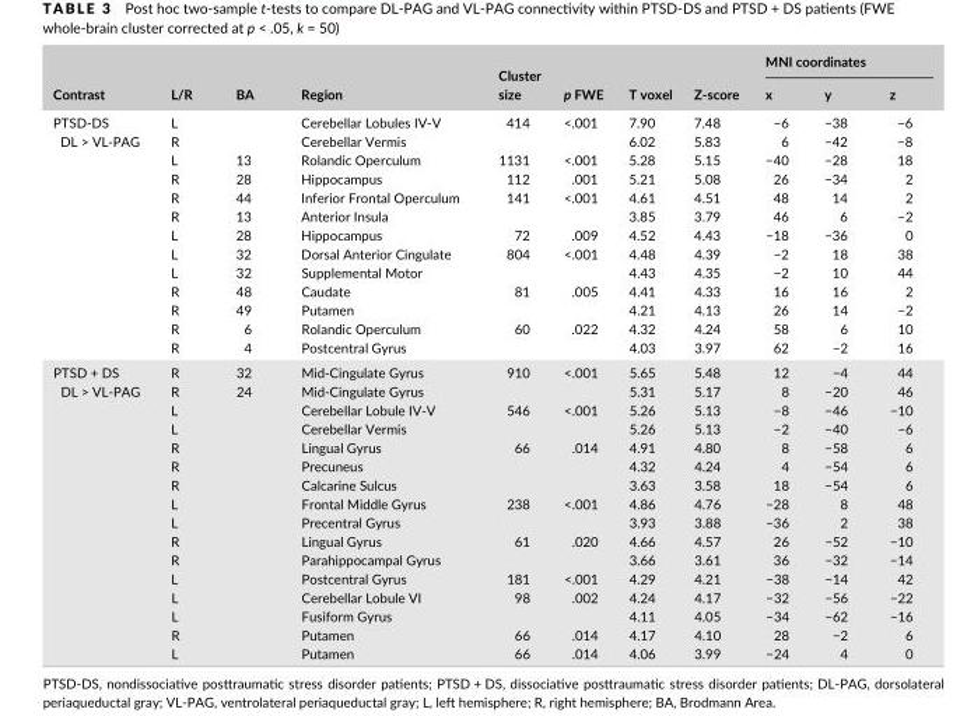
<table><thead><tr><td rowspan="2">Contrast</td><td rowspan="2">L/R</td><td rowspan="2">BA</td><td rowspan="2">Region</td><td rowspan="2">Cluster size</td><td rowspan="2">p FWE</td><td rowspan="2">T voxel</td><td rowspan="2">Z- score</td><td colspan="3">MNI coordinates</td></tr><tr><td>x</td><td>y</td><td>z</td></tr></thead><tbody><tr><td rowspan="13">PTSD- DS DL &gt; VL- PAG</td><td>L</td><td></td><td>Cerebellar Lobules IV- V</td><td>414</td><td>&lt;.001</td><td>7.90</td><td>7.48</td><td>−6</td><td>−38</td><td>−6</td></tr><tr><td>R</td><td></td><td>Cerebellar Vermis</td><td></td><td></td><td>6.02</td><td>5.83</td><td>6</td><td>−42</td><td>−8</td></tr><tr><td>L</td><td>13</td><td>Rolandic Operculum</td><td>1131</td><td>&lt;.001</td><td>5.28</td><td>5.15</td><td>−40</td><td>−28</td><td>18</td></tr><tr><td>R</td><td>28</td><td>Hippocampus</td><td>112</td><td>.001</td><td>5.21</td><td>5.08</td><td>26</td><td>−34</td><td>2</td></tr><tr><td>R</td><td>44</td><td>Inferior Frontal Operculum</td><td>141</td><td>&lt;.001</td><td>4.61</td><td>4.51</td><td>48</td><td>14</td><td>2</td></tr><tr><td>R</td><td>13</td><td>Anterior Insula</td><td></td><td></td><td>3.85</td><td>3.79</td><td>46</td><td>6</td><td>−2</td></tr><tr><td>L</td><td>28</td><td>Hippocampus</td><td>72</td><td>.009</td><td>4.52</td><td>4.43</td><td>−18</td><td>−36</td><td>0</td></tr><tr><td>L</td><td>32</td><td>Dorsal Anterior Cingulate</td><td>804</td><td>&lt;.001</td><td>4.48</td><td>4.39</td><td>−2</td><td>18</td><td>38</td></tr><tr><td>L</td><td>32</td><td>Supplemental Motor</td><td></td><td></td><td>4.43</td><td>4.35</td><td>−2</td><td>10</td><td>44</td></tr><tr><td>R</td><td>48</td><td>Caudate</td><td>81</td><td>.005</td><td>4.41</td><td>4.33</td><td>16</td><td>16</td><td>2</td></tr><tr><td>R</td><td>49</td><td>Putamen</td><td></td><td></td><td>4.21</td><td>4.13</td><td>26</td><td>14</td><td>−2</td></tr><tr><td>R</td><td>6</td><td>Rolandic Operculum</td><td>60</td><td>.022</td><td>4.32</td><td>4.24</td><td>58</td><td>6</td><td>10</td></tr><tr><td>R</td><td>4</td><td>Postcentral Gyrus</td><td></td><td></td><td>4.03</td><td>3.97</td><td>62</td><td>−2</td><td>16</td></tr><tr><td rowspan="16">PTSD + DS DL &gt; VL- PAG</td><td>R</td><td>32</td><td>Mid- Cingulate Gyrus</td><td>910</td><td>&lt;.001</td><td>5.65</td><td>5.48</td><td>12</td><td>−4</td><td>44</td></tr><tr><td>R</td><td>24</td><td>Mid- Cingulate Gyrus</td><td></td><td></td><td>5.31</td><td>5.17</td><td>8</td><td>−20</td><td>46</td></tr><tr><td>L</td><td></td><td>Cerebellar Lobule IV- V</td><td>546</td><td>&lt;.001</td><td>5.26</td><td>5.13</td><td>−8</td><td>−46</td><td>−10</td></tr><tr><td>L</td><td></td><td>Cerebellar Vermis</td><td></td><td></td><td>5.26</td><td>5.13</td><td>−2</td><td>−40</td><td>−6</td></tr><tr><td>R</td><td></td><td>Lingual Gyrus</td><td>66</td><td>.014</td><td>4.91</td><td>4.80</td><td>8</td><td>−58</td><td>6</td></tr><tr><td>R</td><td></td><td>Precuneus</td><td></td><td></td><td>4.32</td><td>4.24</td><td>4</td><td>−54</td><td>6</td></tr><tr><td>R</td><td></td><td>Calcarine Sulcus</td><td></td><td></td><td>3.63</td><td>3.58</td><td>18</td><td>−54</td><td>6</td></tr><tr><td>L</td><td></td><td>Frontal Middle Gyrus</td><td>238</td><td>&lt;.001</td><td>4.86</td><td>4.76</td><td>−28</td><td>8</td><td>48</td></tr><tr><td>L</td><td></td><td>Precentral Gyrus</td><td></td><td></td><td>3.93</td><td>3.88</td><td>−36</td><td>2</td><td>38</td></tr><tr><td>R</td><td></td><td>Lingual Gyrus</td><td>61</td><td>.020</td><td>4.66</td><td>4.57</td><td>26</td><td>−52</td><td>−10</td></tr><tr><td>R</td><td></td><td>Parahippocampal Gyrus</td><td></td><td></td><td>3.66</td><td>3.61</td><td>36</td><td>−32</td><td>−14</td></tr><tr><td>L</td><td></td><td>Postcentral Gyrus</td><td>181</td><td>&lt;.001</td><td>4.29</td><td>4.21</td><td>−38</td><td>−14</td><td>42</td></tr><tr><td>L</td><td></td><td>Cerebellar Lobule VI</td><td>98</td><td>.002</td><td>4.24</td><td>4.17</td><td>−32</td><td>−56</td><td>−22</td></tr><tr><td>L</td><td></td><td>Fusiform Gyrus</td><td></td><td></td><td>4.11</td><td>4.05</td><td>−34</td><td>−62</td><td>−16</td></tr><tr><td>R</td><td></td><td>Putamen</td><td>66</td><td>.014</td><td>4.17</td><td>4.10</td><td>28</td><td>−2</td><td>6</td></tr><tr><td>L</td><td></td><td>Putamen</td><td>66</td><td>.014</td><td>4.06</td><td>3.99</td><td>−24</td><td>4</td><td>0</td></tr></tbody></table>